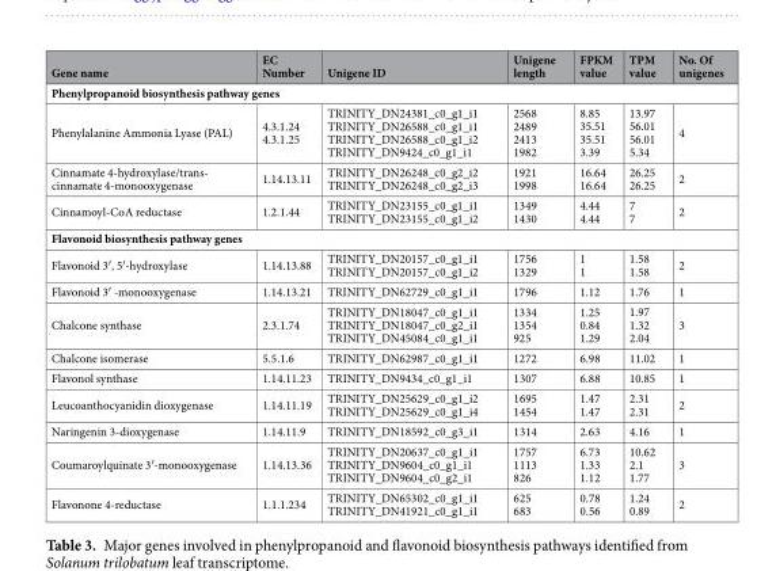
<table><thead><tr><td>Gene name</td><td>EC Number</td><td>Unigene ID</td><td>Unigene length</td><td>FPKM value</td><td>TPM value</td><td>No. Of unigenes</td></tr></thead><tbody><tr><td colspan="7">Phenylpropanoid biosynthesis pathway genes</td></tr><tr><td>Phenylalanine Ammonia Lyase (PAL)</td><td>4.3.1.24 4.3.1.25</td><td>TRINITY_DN24381_c0_g1_i1 TRINITY_DN26588_c0_g1_i1 TRINITY_DN26588_c0_g1_i2 TRINITY_DN9424_c0_g1_i1</td><td>2568 2489 2413 1982</td><td>8.85 35.51 35.51 3.39</td><td>13.97 56.01 56.01 5.34</td><td>4</td></tr><tr><td>Cinnamate 4-hydroxylase/trans- cinnamate 4-monooxygenase</td><td>1.14.13.11</td><td>TRINITY_DN26248_c0_g2_i2 TRINITY_DN26248_c0_g2_i3</td><td>1921 1998</td><td>16.64 16.64</td><td>26.25 26.25</td><td>2</td></tr><tr><td>Cinnamoyl-CoA reductase</td><td>1.2.1.44</td><td>TRINITY_DN23155_c0_g1_i1 TRINITY_DN23155_c0_g1_i2</td><td>1349 1430</td><td>4.44 4.44</td><td>7 7</td><td>2</td></tr><tr><td colspan="7">Flavonoid biosynthesis pathway genes</td></tr><tr><td>Flavonoid 3′, 5′-hydroxylase</td><td>1.14.13.88</td><td>TRINITY_DN20157_c0_g1_i1 TRINITY_DN20157_c0_g1_i2</td><td>1756 1329</td><td>1 1</td><td>1.58 1.58</td><td>2</td></tr><tr><td>Flavonoid 3′ -monooxygenase</td><td>1.14.13.21</td><td>TRINITY_DN62729_c0_g1_i1</td><td>1796</td><td>1.12</td><td>1.76</td><td>1</td></tr><tr><td>Chalcone synthase</td><td>2.3.1.74</td><td>TRINITY_DN18047_c0_g1_i1 TRINITY_DN18047_c0_g2_i1 TRINITY_DN45084_c0_g1_i1</td><td>1334 1354 925</td><td>1.25 0.84 1.29</td><td>1.97 1.32 2.04</td><td>3</td></tr><tr><td>Chalcone isomerase</td><td>5.5.1.6</td><td>TRINITY_DN62987_c0_g1_i1</td><td>1272</td><td>6.98</td><td>11.02</td><td>1</td></tr><tr><td>Flavonol synthase</td><td>1.14.11.23</td><td>TRINITY_DN9434_c0_g1_i1</td><td>1307</td><td>6.88</td><td>10.85</td><td>1</td></tr><tr><td>Leucoanthocyanidin dioxygenase</td><td>1.14.11.19</td><td>TRINITY_DN25629_c0_g1_i2 TRINITY_DN25629_c0_g1_i4</td><td>1695 1454</td><td>1.47 1.47</td><td>2.31 2.31</td><td>2</td></tr><tr><td>Naringenin 3-dioxygenase</td><td>1.14.11.9</td><td>TRINITY_DN18592_c0_g3_i1</td><td>1314</td><td>2.63</td><td>4.16</td><td>1</td></tr><tr><td>Coumaroylquinate 3′-monooxygenase</td><td>1.14.13.36</td><td>TRINITY_DN20637_c0_g1_i1 TRINITY_DN9604_c0_g1_i1 TRINITY_DN9604_c0_g2_i1</td><td>1757 1113 826</td><td>6.73 1.33 1.12</td><td>10.62 2.1 1.77</td><td>3</td></tr><tr><td>Flavonone 4-reductase</td><td>1.1.1.234</td><td>TRINITY_DN65302_c0_g1_i1 TRINITY_DN41921_c0_g1_i1</td><td>625 683</td><td>0.78 0.56</td><td>1.24 0.89</td><td>2</td></tr></tbody></table>